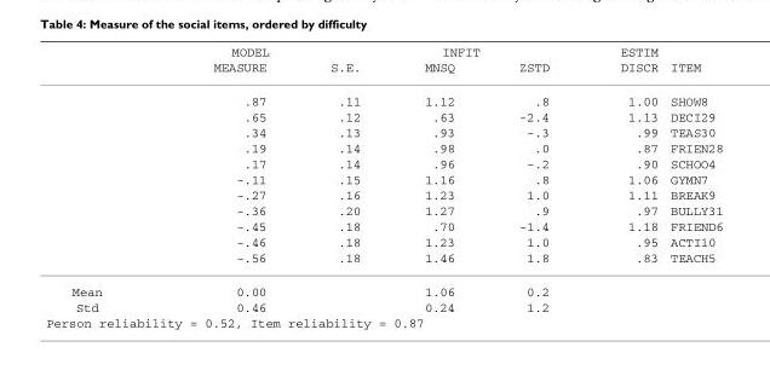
<table><thead><tr><td rowspan="2"></td><td colspan="2">MODEL</td><td colspan="2">INFIT</td><td rowspan="2">ESTIM DISCR</td><td rowspan="2">ITEM</td></tr><tr><td>MEASURE</td><td>S.E.</td><td>MNSQ</td><td>ZSTD</td></tr></thead><tbody><tr><td></td><td>.87</td><td>.11</td><td>1.12</td><td>.8</td><td>1.00</td><td>SHOW8</td></tr><tr><td></td><td>.65</td><td>.12</td><td>.63</td><td>-2.4</td><td>1.13</td><td>DECI29</td></tr><tr><td></td><td>.34</td><td>.13</td><td>.93</td><td>-.3</td><td>.99</td><td>TEAS30</td></tr><tr><td></td><td>.19</td><td>.14</td><td>.98</td><td>.0</td><td>.87</td><td>FRIEN28</td></tr><tr><td></td><td>.17</td><td>.14</td><td>.96</td><td>-.2</td><td>.90</td><td>SCHOO4</td></tr><tr><td></td><td>-.11</td><td>.15</td><td>1.16</td><td>.8</td><td>1.06</td><td>GYMN7</td></tr><tr><td></td><td>-.27</td><td>.16</td><td>1.23</td><td>1.0</td><td>1.11</td><td>BREAK9</td></tr><tr><td></td><td>-.36</td><td>.20</td><td>1.27</td><td>.9</td><td>.97</td><td>BULLY31</td></tr><tr><td></td><td>-.45</td><td>.18</td><td>.70</td><td>-1.4</td><td>1.18</td><td>FRIEND6</td></tr><tr><td></td><td>-.46</td><td>.18</td><td>1.23</td><td>1.0</td><td>.95</td><td>ACTI10</td></tr><tr><td></td><td>-.56</td><td>.18</td><td>1.46</td><td>1.8</td><td>.83</td><td>TEACH5</td></tr><tr><td>Mean</td><td>0.00</td><td></td><td>1.06</td><td>0.2</td><td></td><td></td></tr><tr><td>Std</td><td>0.46</td><td></td><td>0.24</td><td>1.2</td><td></td><td></td></tr><tr><td colspan="7">Person reliability = 0.52, Item reliability = 0.87</td></tr></tbody></table>